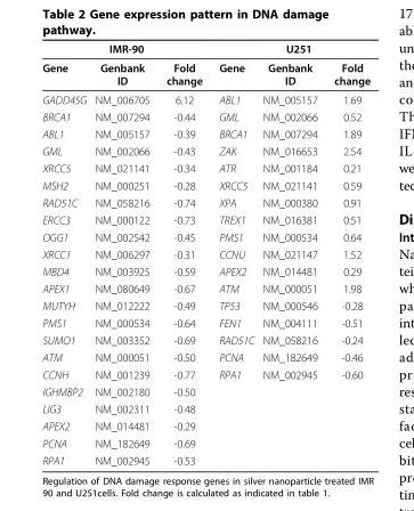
<table><thead><tr><td colspan="3">IMR-90</td><td colspan="3">U251</td></tr><tr><td>Gene</td><td>Genbank ID</td><td>Fold change</td><td>Gene</td><td>Genbank ID</td><td>Fold change</td></tr></thead><tbody><tr><td>GADD45G</td><td>NM_006705</td><td>6.12</td><td>ABL1</td><td>NM_005157</td><td>1.69</td></tr><tr><td>BRCA1</td><td>NM_007294</td><td>-0.44</td><td>GML</td><td>NM_002066</td><td>0.52</td></tr><tr><td>ABL1</td><td>NM_005157</td><td>-0.39</td><td>BRCA1</td><td>NM_007294</td><td>1.89</td></tr><tr><td>GML</td><td>NM_002066</td><td>-0.43</td><td>ZAK</td><td>NM_016653</td><td>2.54</td></tr><tr><td>XRCC5</td><td>NM_021141</td><td>-0.34</td><td>ATR</td><td>NM_001184</td><td>0.21</td></tr><tr><td>MSH2</td><td>NM_000251</td><td>-0.28</td><td>XRCC5</td><td>NM_021141</td><td>0.59</td></tr><tr><td>RAD51C</td><td>NM_058216</td><td>-0.74</td><td>XPA</td><td>NM_000380</td><td>0.91</td></tr><tr><td>ERCC3</td><td>NM_000122</td><td>-0.73</td><td>TREX1</td><td>NM_016381</td><td>0.51</td></tr><tr><td>OGG1</td><td>NM_002542</td><td>-0.45</td><td>PMS1</td><td>NM_000534</td><td>0.64</td></tr><tr><td>XRCC1</td><td>NM_006297</td><td>-0.31</td><td>CCNU</td><td>NM_021147</td><td>1.52</td></tr><tr><td>MBD4</td><td>NM_003925</td><td>-0.59</td><td>APEX2</td><td>NM_014481</td><td>0.29</td></tr><tr><td>APEX1</td><td>NM_080649</td><td>-0.67</td><td>ATM</td><td>NM_000051</td><td>1.98</td></tr><tr><td>MUTYH</td><td>NM_012222</td><td>-0.49</td><td>TP53</td><td>NM_000546</td><td>-0.28</td></tr><tr><td>PMS1</td><td>NM_000534</td><td>-0.64</td><td>FEN1</td><td>NM_004111</td><td>-0.51</td></tr><tr><td>SUMO1</td><td>NM_003352</td><td>-0.69</td><td>RAD51C</td><td>NM_058216</td><td>-0.24</td></tr><tr><td>ATM</td><td>NM_000051</td><td>-0.50</td><td>PCNA</td><td>NM_182649</td><td>-0.46</td></tr><tr><td>CCNH</td><td>NM_001239</td><td>-0.77</td><td>RPA1</td><td>NM_002945</td><td>-0.60</td></tr><tr><td>IGHMBP2</td><td>NM_002180</td><td>-0.50</td><td></td><td></td><td></td></tr><tr><td>LIG3</td><td>NM_002311</td><td>-0.48</td><td></td><td></td><td></td></tr><tr><td>APEX2</td><td>NM_014481</td><td>-0.29</td><td></td><td></td><td></td></tr><tr><td>PCNA</td><td>NM_182649</td><td>-0.69</td><td></td><td></td><td></td></tr><tr><td>RPA1</td><td>NM_002945</td><td>-0.53</td><td></td><td></td><td></td></tr></tbody></table>